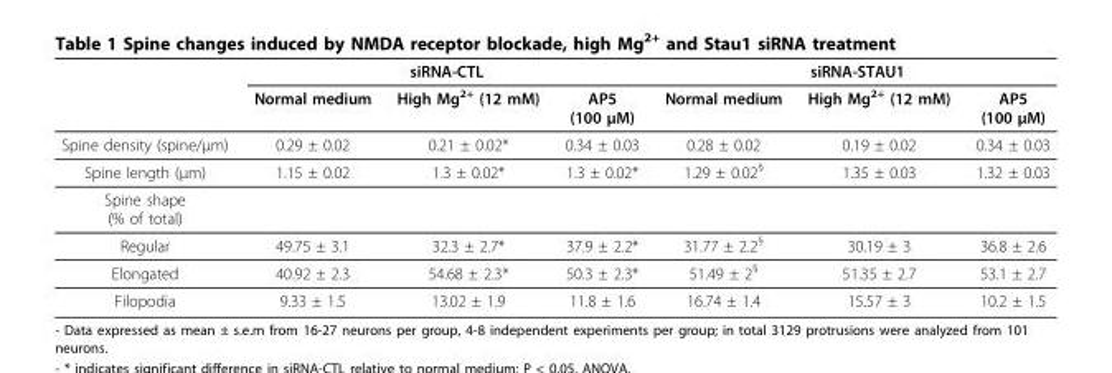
<table><thead><tr><td rowspan="2"></td><td colspan="3">siRNA-CTL</td><td colspan="3">siRNA-STAU1</td></tr><tr><td>Normal medium</td><td>High Mg<sup>2+</sup> (12 mM)</td><td>AP5 (100 μM)</td><td>Normal medium</td><td>High Mg<sup>2+</sup> (12 mM)</td><td>AP5 (100 μM)</td></tr></thead><tbody><tr><td>Spine density (spine/μm)</td><td>0.29 ± 0.02</td><td>0.21 ± 0.02*</td><td>0.34 ± 0.03</td><td>0.28 ± 0.02</td><td>0.19 ± 0.02</td><td>0.34 ± 0.03</td></tr><tr><td>Spine length (μm)</td><td>1.15 ± 0.02</td><td>1.3 ± 0.02*</td><td>1.3 ± 0.02*</td><td>1.29 ± 0.02<sup>§</sup></td><td>1.35 ± 0.03</td><td>1.32 ± 0.03</td></tr><tr><td colspan="7">Spine shape (% of total)</td></tr><tr><td>Regular</td><td>49.75 ± 3.1</td><td>32.3 ± 2.7*</td><td>37.9 ± 2.2*</td><td>31.77 ± 2.2<sup>§</sup></td><td>30.19 ± 3</td><td>36.8 ± 2.6</td></tr><tr><td>Elongated</td><td>40.92 ± 2.3</td><td>54.68 ± 2.3*</td><td>50.3 ± 2.3*</td><td>51.49 ± 2<sup>§</sup></td><td>51.35 ± 2.7</td><td>53.1 ± 2.7</td></tr><tr><td>Filopodia</td><td>9.33 ± 1.5</td><td>13.02 ± 1.9</td><td>11.8 ± 1.6</td><td>16.74 ± 1.4</td><td>15.57 ± 3</td><td>10.2 ± 1.5</td></tr></tbody></table>